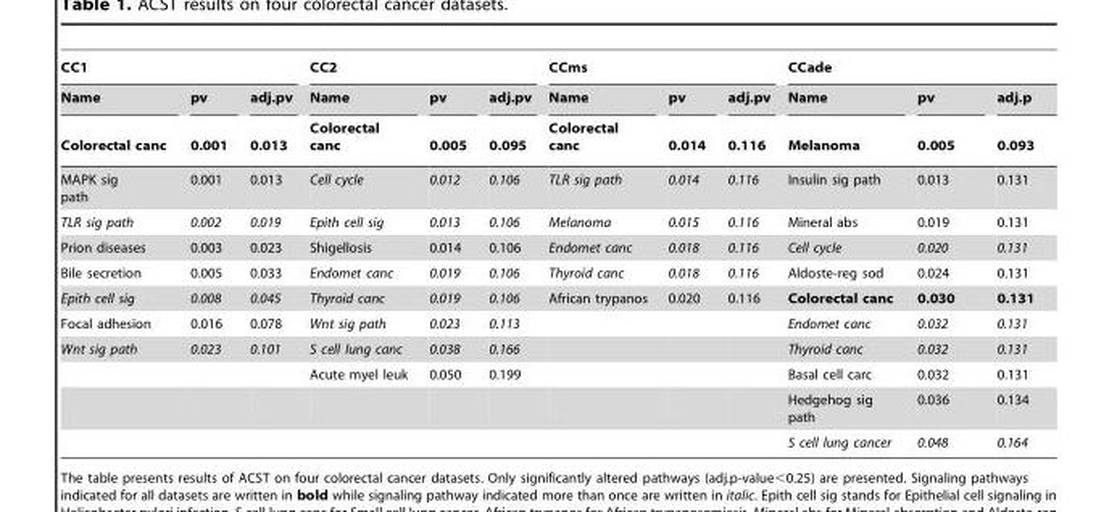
<table><thead><tr><td colspan="3">CC1</td><td colspan="3">CC2</td><td colspan="3">CCms</td><td colspan="3">CCade</td></tr><tr><td rowspan="2">Name Colorectal canc</td><td rowspan="2">pv 0.001</td><td rowspan="2">adj.pv 0.013</td><td rowspan="2">Name Colorectal canc</td><td rowspan="2">pv 0.005</td><td rowspan="2">adj.pv 0.095</td><td rowspan="2">Name Colorectal canc</td><td rowspan="2">pv 0.014</td><td rowspan="2">adj.pv 0.116</td><td rowspan="2">Name Melanoma</td><td rowspan="2">pv 0.005</td><td rowspan="2">adj.p 0.093</td></tr><tr></tr></thead><tbody><tr><td>MAPK sig path</td><td>0.001</td><td>0.013</td><td>Cell cycle</td><td>0.012</td><td>0.106</td><td>TLR sig path</td><td>0.014</td><td>0.116</td><td>Insulin sig path</td><td>0.013</td><td>0.131</td></tr><tr><td>TLR sig path</td><td>0.002</td><td>0.019</td><td>Epith cell sig</td><td>0.013</td><td>0.106</td><td>Melanoma</td><td>0.015</td><td>0.116</td><td>Mineral abs</td><td>0.019</td><td>0.131</td></tr><tr><td>Prion diseases</td><td>0.003</td><td>0.023</td><td>Shigellosis</td><td>0.014</td><td>0.106</td><td>Endomet canc</td><td>0.018</td><td>0.116</td><td>Cell cycle</td><td>0.020</td><td>0.131</td></tr><tr><td>Bile secretion</td><td>0.005</td><td>0.033</td><td>Endomet canc</td><td>0.019</td><td>0.106</td><td>Thyroid canc</td><td>0.018</td><td>0.116</td><td>Aldoste-reg sod</td><td>0.024</td><td>0.131</td></tr><tr><td>Epith cell sig</td><td>0.008</td><td>0.045</td><td>Thyroid canc</td><td>0.019</td><td>0.106</td><td>African trypanos</td><td>0.020</td><td>0.116</td><td>Colorectal canc</td><td>0.030</td><td>0.131</td></tr><tr><td>Focal adhesion</td><td>0.016</td><td>0.078</td><td>Wnt sig path</td><td>0.023</td><td>0.113</td><td></td><td></td><td></td><td>Endomet canc</td><td>0.032</td><td>0.131</td></tr><tr><td rowspan="4">Wnt sig path</td><td>0.023</td><td>0.101</td><td>S cell lung canc</td><td>0.038</td><td>0.166</td><td></td><td></td><td></td><td>Thyroid canc</td><td>0.032</td><td>0.131</td></tr><tr><td></td><td></td><td>Acute myel leuk</td><td>0.050</td><td>0.199</td><td></td><td></td><td></td><td>Basal cell carc</td><td>0.032</td><td>0.131</td></tr><tr><td></td><td></td><td></td><td></td><td></td><td></td><td></td><td></td><td>Hedgehog sig path</td><td>0.036</td><td>0.134</td></tr><tr><td></td><td></td><td></td><td></td><td></td><td></td><td></td><td></td><td>S cell lung cancer</td><td>0.048</td><td>0.164</td></tr></tbody></table>